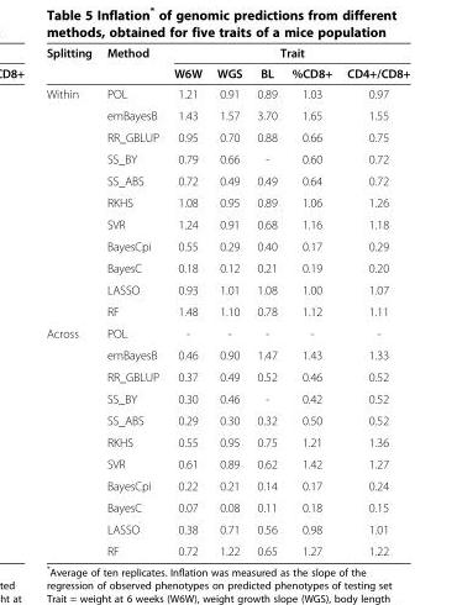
<table><thead><tr><td rowspan="2">Splitting</td><td rowspan="2">Method</td><td colspan="5">Trait</td></tr><tr><td>W6W</td><td>WGS</td><td>BL</td><td>%CD8+</td><td>CD4+/CD8+</td></tr></thead><tbody><tr><td rowspan="11">Within</td><td>POL</td><td>1.21</td><td>0.91</td><td>0.89</td><td>1.03</td><td>0.97</td></tr><tr><td>emBayesB</td><td>1.43</td><td>1.57</td><td>3.70</td><td>1.65</td><td>1.55</td></tr><tr><td>RR_GBLUP</td><td>0.95</td><td>0.70</td><td>0.88</td><td>0.66</td><td>0.75</td></tr><tr><td>SS_BY</td><td>0.79</td><td>0.66</td><td>-</td><td>0.60</td><td>0.72</td></tr><tr><td>SS_ABS</td><td>0.72</td><td>0.49</td><td>0.49</td><td>0.64</td><td>0.72</td></tr><tr><td>RKHS</td><td>1.08</td><td>0.95</td><td>0.89</td><td>1.06</td><td>1.26</td></tr><tr><td>SVR</td><td>1.24</td><td>0.91</td><td>0.68</td><td>1.16</td><td>1.18</td></tr><tr><td>BayesCpi</td><td>0.55</td><td>0.29</td><td>0.40</td><td>0.17</td><td>0.29</td></tr><tr><td>BayesC</td><td>0.18</td><td>0.12</td><td>0.21</td><td>0.19</td><td>0.20</td></tr><tr><td>LASSO</td><td>0.93</td><td>1.01</td><td>1.08</td><td>1.00</td><td>1.07</td></tr><tr><td>RF</td><td>1.48</td><td>1.10</td><td>0.78</td><td>1.12</td><td>1.11</td></tr><tr><td rowspan="11">Across</td><td>POL</td><td>-</td><td>-</td><td>-</td><td>-</td><td>-</td></tr><tr><td>emBayesB</td><td>0.46</td><td>0.90</td><td>1.47</td><td>1.43</td><td>1.33</td></tr><tr><td>RR_GBLUP</td><td>0.37</td><td>0.49</td><td>0.52</td><td>0.46</td><td>0.52</td></tr><tr><td>SS_BY</td><td>0.30</td><td>0.46</td><td>-</td><td>0.42</td><td>0.52</td></tr><tr><td>SS_ABS</td><td>0.29</td><td>0.30</td><td>0.32</td><td>0.50</td><td>0.52</td></tr><tr><td>RKHS</td><td>0.55</td><td>0.95</td><td>0.75</td><td>1.21</td><td>1.36</td></tr><tr><td>SVR</td><td>0.61</td><td>0.89</td><td>0.62</td><td>1.42</td><td>1.27</td></tr><tr><td>BayesCpi</td><td>0.22</td><td>0.21</td><td>0.14</td><td>0.17</td><td>0.24</td></tr><tr><td>BayesC</td><td>0.07</td><td>0.08</td><td>0.11</td><td>0.18</td><td>0.15</td></tr><tr><td>LASSO</td><td>0.38</td><td>0.71</td><td>0.56</td><td>0.98</td><td>1.01</td></tr><tr><td>RF</td><td>0.72</td><td>1.22</td><td>0.65</td><td>1.27</td><td>1.22</td></tr></tbody></table>